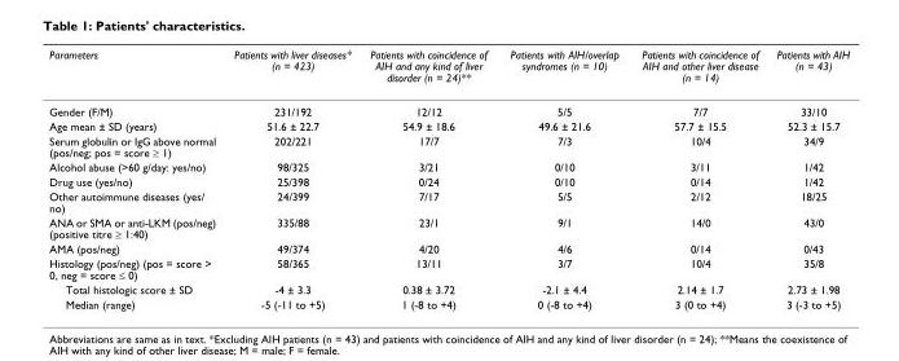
<table><thead><tr><td>Parameters</td><td>Patients with liver diseases* (n = 423)</td><td>Patients with coincidence of AIH and any kind of liver disorder (n = 24)**</td><td>Patients with AIH/overlap syndromes (n = 10)</td><td>Patients with coincidence of AIH and other liver disease (n = 14)</td><td>Patients with AIH (n = 43)</td></tr></thead><tbody><tr><td>Gender (F/M)</td><td>231/192</td><td>12/12</td><td>5/5</td><td>7/7</td><td>33/10</td></tr><tr><td>Age mean ± SD (years)</td><td>51.6 ± 22.7</td><td>54.9 ± 18.6</td><td>49.6 ± 21.6</td><td>57.7 ± 15.5</td><td>52.3 ± 15.7</td></tr><tr><td>Serum globulin or IgG above normal (pos/neg; pos = score ≥ 1)</td><td>202/221</td><td>17/7</td><td>7/3</td><td>10/4</td><td>34/9</td></tr><tr><td>Alcohol abuse (&gt;60 g/day: yes/no)</td><td>98/325</td><td>3/21</td><td>0/10</td><td>3/11</td><td>1/42</td></tr><tr><td>Drug use (yes/no)</td><td>25/398</td><td>0/24</td><td>0/10</td><td>0/14</td><td>1/42</td></tr><tr><td>Other autoimmune diseases (yes/ no)</td><td>24/399</td><td>7/17</td><td>5/5</td><td>2/12</td><td>18/25</td></tr><tr><td>ANA or SMA or anti-LKM (pos/neg) (positive titre ≥ 1:40)</td><td>335/88</td><td>23/1</td><td>9/1</td><td>14/0</td><td>43/0</td></tr><tr><td>AMA (pos/neg)</td><td>49/374</td><td>4/20</td><td>4/6</td><td>0/14</td><td>0/43</td></tr><tr><td>Histology (pos/neg) (pos = score &gt; 0, neg = score ≤ 0)</td><td>58/365</td><td>13/11</td><td>3/7</td><td>10/4</td><td>35/8</td></tr><tr><td>Total histologic score ± SD</td><td>-4 ± 3.3</td><td>0.38 ± 3.72</td><td>-2.1 ± 4.4</td><td>2.14 ± 1.7</td><td>2.73 ± 1.98</td></tr><tr><td>Median (range)</td><td>-5 (-11 to +5)</td><td>1 (-8 to +4)</td><td>0 (-8 to +4)</td><td>3 (0 to +4)</td><td>3 (-3 to +5)</td></tr></tbody></table>